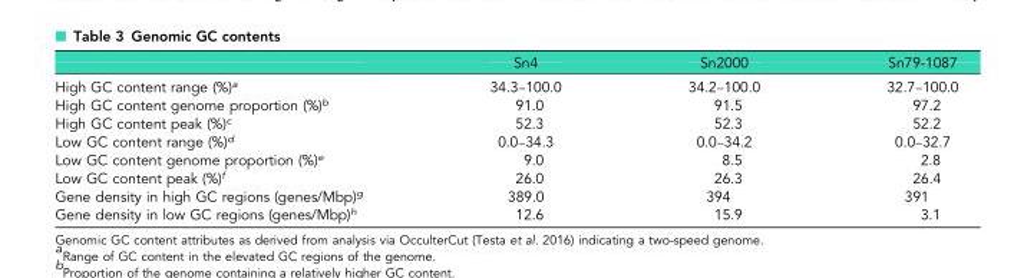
<table><thead><tr><td></td><td>Sn4</td><td>Sn2000</td><td>Sn79-1087</td></tr></thead><tbody><tr><td>High GC content range (%)<sup>a</sup></td><td>34.3–100.0</td><td>34.2–100.0</td><td>32.7–100.0</td></tr><tr><td>High GC content genome proportion (%)<sup>b</sup></td><td>91.0</td><td>91.5</td><td>97.2</td></tr><tr><td>High GC content peak (%)<sup>c</sup></td><td>52.3</td><td>52.3</td><td>52.2</td></tr><tr><td>Low GC content range (%)<sup>d</sup></td><td>0.0–34.3</td><td>0.0–34.2</td><td>0.0–32.7</td></tr><tr><td>Low GC content genome proportion (%)<sup>e</sup></td><td>9.0</td><td>8.5</td><td>2.8</td></tr><tr><td>Low GC content peak (%)<sup>f</sup></td><td>26.0</td><td>26.3</td><td>26.4</td></tr><tr><td>Gene density in high GC regions (genes/Mbp)<sup>g</sup></td><td>389.0</td><td>394</td><td>391</td></tr><tr><td>Gene density in low GC regions (genes/Mbp)<sup>h</sup></td><td>12.6</td><td>15.9</td><td>3.1</td></tr></tbody></table>